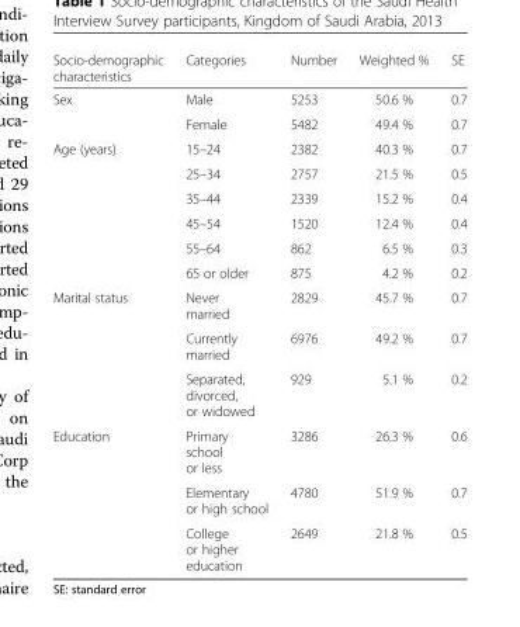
<table><thead><tr><td>Socio-demographic characteristics</td><td>Categories</td><td>Number</td><td>Weighted %</td><td>SE</td></tr></thead><tbody><tr><td rowspan="2">Sex</td><td>Male</td><td>5253</td><td>50.6 %</td><td>0.7</td></tr><tr><td>Female</td><td>5482</td><td>49.4 %</td><td>0.7</td></tr><tr><td rowspan="6">Age (years)</td><td>15–24</td><td>2382</td><td>40.3 %</td><td>0.7</td></tr><tr><td>25–34</td><td>2757</td><td>21.5 %</td><td>0.5</td></tr><tr><td>35–44</td><td>2339</td><td>15.2 %</td><td>0.4</td></tr><tr><td>45–54</td><td>1520</td><td>12.4 %</td><td>0.4</td></tr><tr><td>55–64</td><td>862</td><td>6.5 %</td><td>0.3</td></tr><tr><td>65 or older</td><td>875</td><td>4.2 %</td><td>0.2</td></tr><tr><td rowspan="3">Marital status</td><td>Never married</td><td>2829</td><td>45.7 %</td><td>0.7</td></tr><tr><td>Currently married</td><td>6976</td><td>49.2 %</td><td>0.7</td></tr><tr><td>Separated, divorced, or widowed</td><td>929</td><td>5.1 %</td><td>0.2</td></tr><tr><td rowspan="3">Education</td><td>Primary school or less</td><td>3286</td><td>26.3 %</td><td>0.6</td></tr><tr><td>Elementary or high school</td><td>4780</td><td>51.9 %</td><td>0.7</td></tr><tr><td>College or higher education</td><td>2649</td><td>21.8 %</td><td>0.5</td></tr></tbody></table>